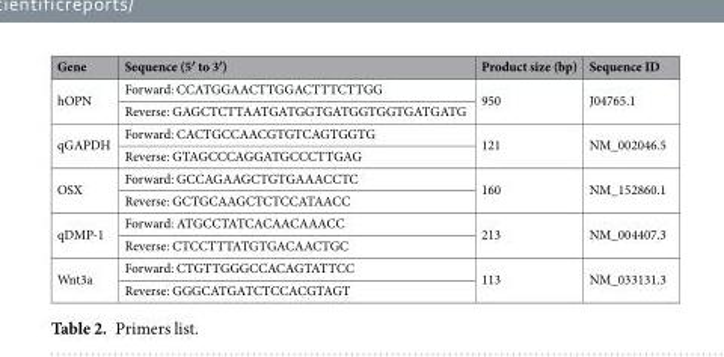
<table><thead><tr><td>Gene</td><td>Sequence (5′ to 3′)</td><td>Product size (bp)</td><td>Sequence ID</td></tr></thead><tbody><tr><td rowspan="2">hOPN</td><td>Forward: CCATGGAACTTGGACTTTCTTGG</td><td rowspan="2">950</td><td rowspan="2">J04765.1</td></tr><tr><td>Reverse: GAGCTCTTAATGATGGTGATGGTGGTGATGATG</td></tr><tr><td rowspan="2">qGAPDH</td><td>Forward: CACTGCCAACGTGTCAGTGGTG</td><td rowspan="2">121</td><td rowspan="2">NM_002046.5</td></tr><tr><td>Reverse: GTAGCCCAGGATGCCCTTGAG</td></tr><tr><td rowspan="2">OSX</td><td>Forward: GCCAGAAGCTGTGAAACCTC</td><td rowspan="2">160</td><td rowspan="2">NM_152860.1</td></tr><tr><td>Reverse: GCTGCAAGCTCTCCATAACC</td></tr><tr><td rowspan="2">qDMP-1</td><td>Forward: ATGCCTATCACAACAAACC</td><td rowspan="2">213</td><td rowspan="2">NM_004407.3</td></tr><tr><td>Reverse: CTCCTTTATGTGACAACTGC</td></tr><tr><td rowspan="2">Wnt3a</td><td>Forward: CTGTTGGGCCACAGTATTCC</td><td rowspan="2">113</td><td rowspan="2">NM_033131.3</td></tr><tr><td>Reverse: GGGCATGATCTCCACGTAGT</td></tr></tbody></table>